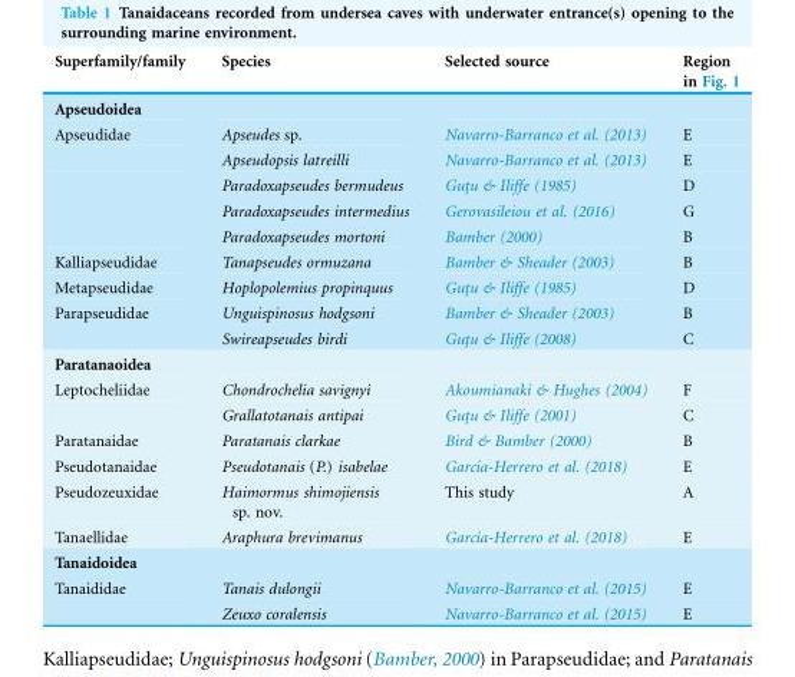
<table><thead><tr><td>Superfamily/family</td><td>Species</td><td>Selected source</td><td>Region in Fig. 1</td></tr></thead><tbody><tr><td colspan="4">Apseudoidea</td></tr><tr><td rowspan="5">Apseudidae</td><td>Apseudes sp.</td><td>Navarro-Barranco et al. (2013)</td><td>E</td></tr><tr><td>Apseudopsis latreilli</td><td>Navarro-Barranco et al. (2013)</td><td>E</td></tr><tr><td>Paradoxapseudes bermudeus</td><td>Gut¸u &amp; Iliffe (1985)</td><td>D</td></tr><tr><td>Paradoxapseudes intermedius</td><td>Gerovasileiou et al. (2016)</td><td>G</td></tr><tr><td>Paradoxapseudes mortoni</td><td>Bamber (2000)</td><td>B</td></tr><tr><td>Kalliapseudidae</td><td>Tanapseudes ormuzana</td><td>Bamber &amp; Sheader (2003)</td><td>B</td></tr><tr><td>Metapseudidae</td><td>Hoplopolemius propinquus</td><td>Gut¸u &amp; Iliffe (1985)</td><td>D</td></tr><tr><td rowspan="2">Parapseudidae</td><td>Unguispinosus hodgsoni</td><td>Bamber &amp; Sheader (2003)</td><td>B</td></tr><tr><td>Swireapseudes birdi</td><td>Gut¸u &amp; Iliffe (2008)</td><td>C</td></tr><tr><td colspan="4">Paratanaoidea</td></tr><tr><td rowspan="2">Leptocheliidae</td><td>Chondrochelia savignyi</td><td>Akoumianaki &amp; Hughes (2004)</td><td>F</td></tr><tr><td>Grallatotanais antipai</td><td>Gut¸u &amp; Iliffe (2001)</td><td>C</td></tr><tr><td>Paratanaidae</td><td>Paratanais clarkae</td><td>Bird &amp; Bamber (2000)</td><td>B</td></tr><tr><td>Pseudotanaidae</td><td>Pseudotanais (P.) isabelae</td><td>Garcı´a-Herrero et al. (2018)</td><td>E</td></tr><tr><td>Pseudozeuxidae</td><td>Haimormus shimojiensis sp. nov.</td><td>This study</td><td>A</td></tr><tr><td>Tanaellidae</td><td>Araphura brevimanus</td><td>Garcı´a-Herrero et al. (2018)</td><td>E</td></tr><tr><td colspan="4">Tanaidoidea</td></tr><tr><td rowspan="2">Tanaididae</td><td>Tanais dulongii</td><td>Navarro-Barranco et al. (2015)</td><td>E</td></tr><tr><td>Zeuxo coralensis</td><td>Navarro-Barranco et al. (2015)</td><td>E</td></tr></tbody></table>